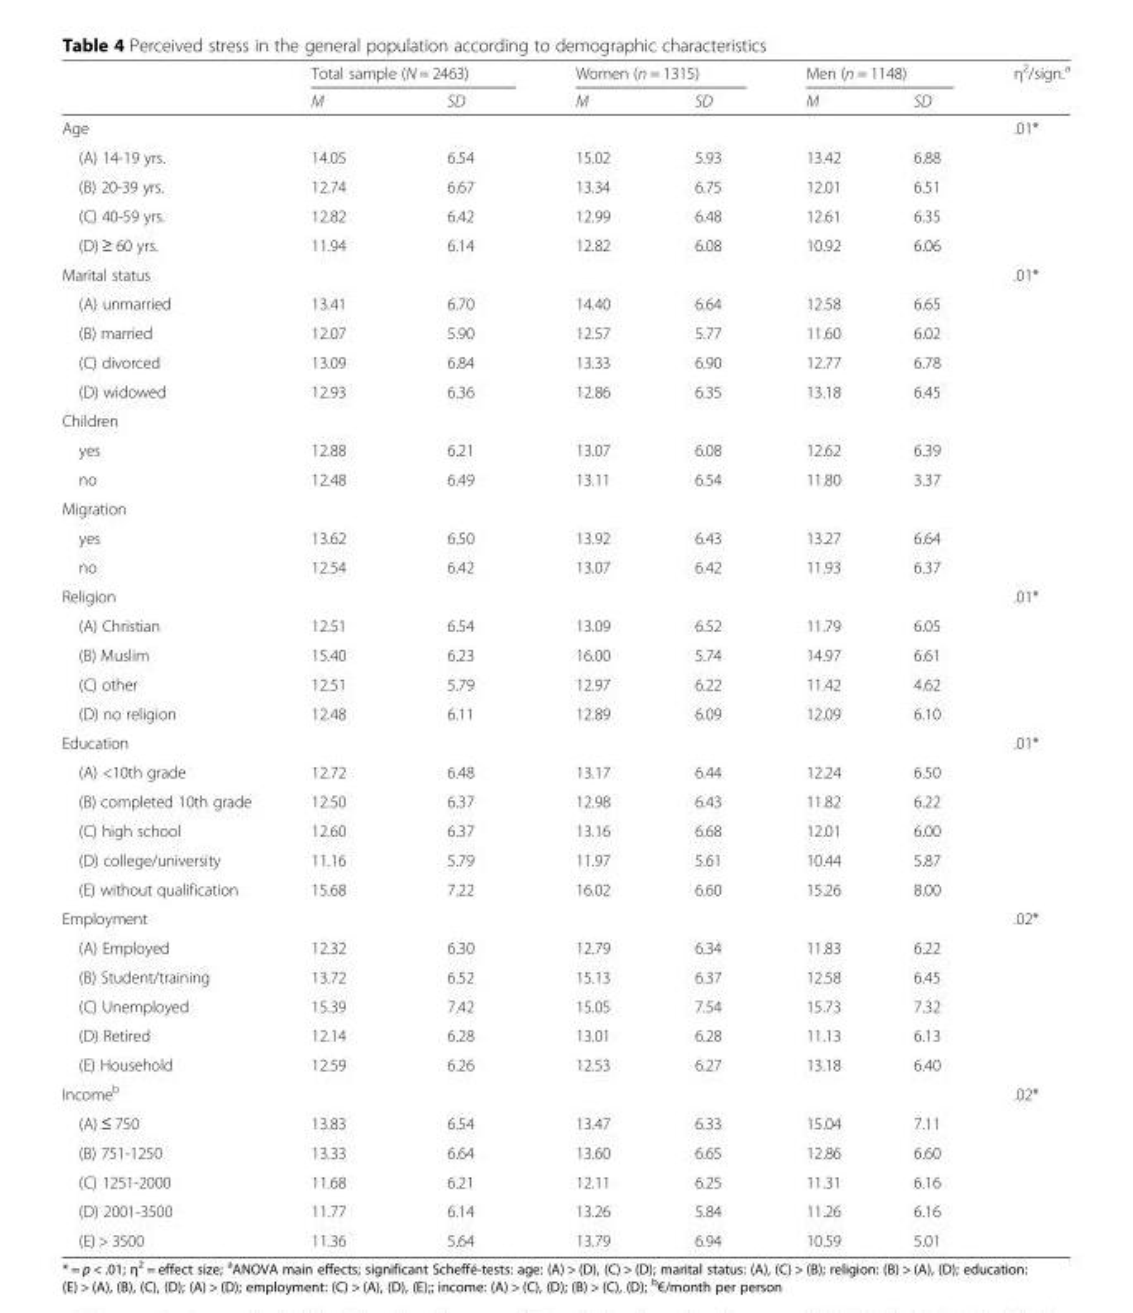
<table><thead><tr><td rowspan="2"></td><td colspan="2">Total sample (N = 2463)</td><td colspan="2">Women (n = 1315)</td><td colspan="2">Men (n = 1148)</td><td rowspan="2">η<sup>2</sup>/sign.<sup>a</sup></td></tr><tr><td>M</td><td>SD</td><td>M</td><td>SD</td><td>M</td><td>SD</td></tr></thead><tbody><tr><td>Age</td><td></td><td></td><td></td><td></td><td></td><td></td><td>.01*</td></tr><tr><td>(A) 14-19 yrs.</td><td>14.05</td><td>6.54</td><td>15.02</td><td>5.93</td><td>13.42</td><td>6.88</td><td></td></tr><tr><td>(B) 20-39 yrs.</td><td>12.74</td><td>6.67</td><td>13.34</td><td>6.75</td><td>12.01</td><td>6.51</td><td></td></tr><tr><td>(C) 40-59 yrs.</td><td>12.82</td><td>6.42</td><td>12.99</td><td>6.48</td><td>12.61</td><td>6.35</td><td></td></tr><tr><td>(D) ≥ 60 yrs.</td><td>11.94</td><td>6.14</td><td>12.82</td><td>6.08</td><td>10.92</td><td>6.06</td><td></td></tr><tr><td>Marital status</td><td></td><td></td><td></td><td></td><td></td><td></td><td>.01*</td></tr><tr><td>(A) unmarried</td><td>13.41</td><td>6.70</td><td>14.40</td><td>6.64</td><td>12.58</td><td>6.65</td><td></td></tr><tr><td>(B) married</td><td>12.07</td><td>5.90</td><td>12.57</td><td>5.77</td><td>11.60</td><td>6.02</td><td></td></tr><tr><td>(C) divorced</td><td>13.09</td><td>6.84</td><td>13.33</td><td>6.90</td><td>12.77</td><td>6.78</td><td></td></tr><tr><td>(D) widowed</td><td>12.93</td><td>6.36</td><td>12.86</td><td>6.35</td><td>13.18</td><td>6.45</td><td></td></tr><tr><td colspan="8">Children</td></tr><tr><td>yes</td><td>12.88</td><td>6.21</td><td>13.07</td><td>6.08</td><td>12.62</td><td>6.39</td><td></td></tr><tr><td>no</td><td>12.48</td><td>6.49</td><td>13.11</td><td>6.54</td><td>11.80</td><td>3.37</td><td></td></tr><tr><td colspan="8">Migration</td></tr><tr><td>yes</td><td>13.62</td><td>6.50</td><td>13.92</td><td>6.43</td><td>13.27</td><td>6.64</td><td></td></tr><tr><td>no</td><td>12.54</td><td>6.42</td><td>13.07</td><td>6.42</td><td>11.93</td><td>6.37</td><td></td></tr><tr><td>Religion</td><td></td><td></td><td></td><td></td><td></td><td></td><td>.01*</td></tr><tr><td>(A) Christian</td><td>12.51</td><td>6.54</td><td>13.09</td><td>6.52</td><td>11.79</td><td>6.05</td><td></td></tr><tr><td>(B) Muslim</td><td>15.40</td><td>6.23</td><td>16.00</td><td>5.74</td><td>14.97</td><td>6.61</td><td></td></tr><tr><td>(C) other</td><td>12.51</td><td>5.79</td><td>12.97</td><td>6.22</td><td>11.42</td><td>4.62</td><td></td></tr><tr><td>(D) no religion</td><td>12.48</td><td>6.11</td><td>12.89</td><td>6.09</td><td>12.09</td><td>6.10</td><td></td></tr><tr><td>Education</td><td></td><td></td><td></td><td></td><td></td><td></td><td>.01*</td></tr><tr><td>(A) &lt;10th grade</td><td>12.72</td><td>6.48</td><td>13.17</td><td>6.44</td><td>12.24</td><td>6.50</td><td></td></tr><tr><td>(B) completed 10th grade</td><td>12.50</td><td>6.37</td><td>12.98</td><td>6.43</td><td>11.82</td><td>6.22</td><td></td></tr><tr><td>(C) high school</td><td>12.60</td><td>6.37</td><td>13.16</td><td>6.68</td><td>12.01</td><td>6.00</td><td></td></tr><tr><td>(D) college/university</td><td>11.16</td><td>5.79</td><td>11.97</td><td>5.61</td><td>10.44</td><td>5.87</td><td></td></tr><tr><td>(E) without qualification</td><td>15.68</td><td>7.22</td><td>16.02</td><td>6.60</td><td>15.26</td><td>8.00</td><td></td></tr><tr><td>Employment</td><td></td><td></td><td></td><td></td><td></td><td></td><td>.02*</td></tr><tr><td>(A) Employed</td><td>12.32</td><td>6.30</td><td>12.79</td><td>6.34</td><td>11.83</td><td>6.22</td><td></td></tr><tr><td>(B) Student/training</td><td>13.72</td><td>6.52</td><td>15.13</td><td>6.37</td><td>12.58</td><td>6.45</td><td></td></tr><tr><td>(C) Unemployed</td><td>15.39</td><td>7.42</td><td>15.05</td><td>7.54</td><td>15.73</td><td>7.32</td><td></td></tr><tr><td>(D) Retired</td><td>12.14</td><td>6.28</td><td>13.01</td><td>6.28</td><td>11.13</td><td>6.13</td><td></td></tr><tr><td>(E) Household</td><td>12.59</td><td>6.26</td><td>12.53</td><td>6.27</td><td>13.18</td><td>6.40</td><td></td></tr><tr><td>Income<sup>b</sup></td><td></td><td></td><td></td><td></td><td></td><td></td><td>.02*</td></tr><tr><td>(A) ≤ 750</td><td>13.83</td><td>6.54</td><td>13.47</td><td>6.33</td><td>15.04</td><td>7.11</td><td></td></tr><tr><td>(B) 751-1250</td><td>13.33</td><td>6.64</td><td>13.60</td><td>6.65</td><td>12.86</td><td>6.60</td><td></td></tr><tr><td>(C) 1251-2000</td><td>11.68</td><td>6.21</td><td>12.11</td><td>6.25</td><td>11.31</td><td>6.16</td><td></td></tr><tr><td>(D) 2001-3500</td><td>11.77</td><td>6.14</td><td>13.26</td><td>5.84</td><td>11.26</td><td>6.16</td><td></td></tr><tr><td>(E) &gt; 3500</td><td>11.36</td><td>5.64</td><td>13.79</td><td>6.94</td><td>10.59</td><td>5.01</td><td></td></tr></tbody></table>